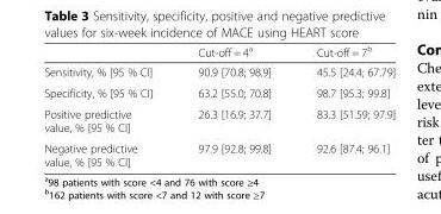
<table><thead><tr><td></td><td>Cut-off = 4<sup>a</sup></td><td>Cut-off = 7<sup>b</sup></td></tr></thead><tbody><tr><td>Sensitivity, % [95 % CI]</td><td>90.9 [70.8; 98.9]</td><td>45.5 [24.4; 67.79]</td></tr><tr><td>Specificity, % [95 % CI]</td><td>63.2 [55.0; 70.8]</td><td>98.7 [95.3; 99.8]</td></tr><tr><td>Positive predictive value, % [95 % CI]</td><td>26.3 [16.9; 37.7]</td><td>83.3 [51.59; 97.9]</td></tr><tr><td>Negative predictive value, % [95 % CI]</td><td>97.9 [92.8; 99.8]</td><td>92.6 [87.4; 96.1]</td></tr></tbody></table>